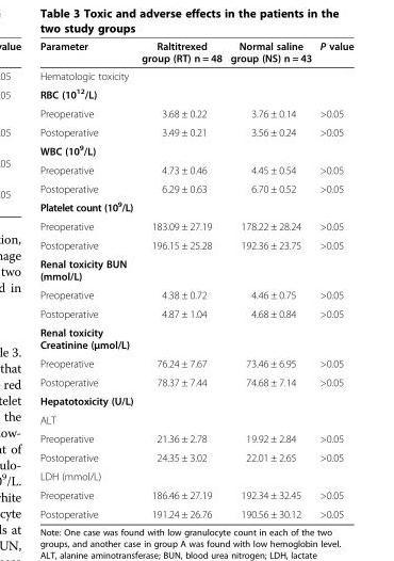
<table><thead><tr><td>Parameter</td><td>Raltitrexed group (RT) n = 48</td><td>Normal saline group (NS) n = 43</td><td>P value</td></tr></thead><tbody><tr><td colspan="4">Hematologic toxicity</td></tr><tr><td colspan="4">RBC (10<sup>12</sup>/L)</td></tr><tr><td>Preoperative</td><td>3.68 ± 0.22</td><td>3.76 ± 0.14</td><td>&gt;0.05</td></tr><tr><td>Postoperative</td><td>3.49 ± 0.21</td><td>3.56 ± 0.24</td><td>&gt;0.05</td></tr><tr><td colspan="4">WBC (10<sup>9</sup>/L)</td></tr><tr><td>Preoperative</td><td>4.73 ± 0.46</td><td>4.45 ± 0.54</td><td>&gt;0.05</td></tr><tr><td>Postoperative</td><td>6.29 ± 0.63</td><td>6.70 ± 0.52</td><td>&gt;0.05</td></tr><tr><td colspan="4">Platelet count (10<sup>9</sup>/L)</td></tr><tr><td>Preoperative</td><td>183.09 ± 27.19</td><td>178.22 ± 28.24</td><td>&gt;0.05</td></tr><tr><td>Postoperative</td><td>196.15 ± 25.28</td><td>192.36 ± 23.75</td><td>&gt;0.05</td></tr><tr><td colspan="4">Renal toxicity BUN (mmol/L)</td></tr><tr><td>Preoperative</td><td>4.38 ± 0.72</td><td>4.46 ± 0.75</td><td>&gt;0.05</td></tr><tr><td>Postoperative</td><td>4.87 ± 1.04</td><td>4.68 ± 0.84</td><td>&gt;0.05</td></tr><tr><td colspan="4">Renal toxicity Creatinine (μmol/L)</td></tr><tr><td>Preoperative</td><td>76.24 ± 7.67</td><td>73.46 ± 6.95</td><td>&gt;0.05</td></tr><tr><td>Postoperative</td><td>78.37 ± 7.44</td><td>74.68 ± 7.14</td><td>&gt;0.05</td></tr><tr><td colspan="4">Hepatotoxicity (U/L)</td></tr><tr><td colspan="4">ALT</td></tr><tr><td>Preoperative</td><td>21.36 ± 2.78</td><td>19.92 ± 2.84</td><td>&gt;0.05</td></tr><tr><td>Postoperative</td><td>24.35 ± 3.02</td><td>22.01 ± 2.65</td><td>&gt;0.05</td></tr><tr><td colspan="4">LDH (mmol/L)</td></tr><tr><td>Preoperative</td><td>186.46 ± 27.19</td><td>192.34 ± 32.45</td><td>&gt;0.05</td></tr><tr><td>Postoperative</td><td>191.24 ± 26.76</td><td>190.56 ± 30.12</td><td>&gt;0.05</td></tr></tbody></table>